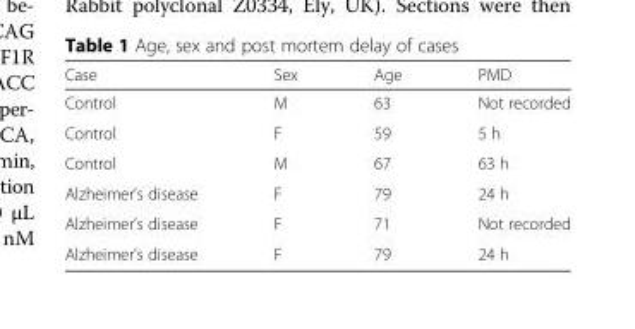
<table><thead><tr><td>Case</td><td>Sex</td><td>Age</td><td>PMD</td></tr></thead><tbody><tr><td>Control</td><td>M</td><td>63</td><td>Not recorded</td></tr><tr><td>Control</td><td>F</td><td>59</td><td>5 h</td></tr><tr><td>Control</td><td>M</td><td>67</td><td>63 h</td></tr><tr><td>Alzheimer’s disease</td><td>F</td><td>79</td><td>24 h</td></tr><tr><td>Alzheimer’s disease</td><td>F</td><td>71</td><td>Not recorded</td></tr><tr><td>Alzheimer’s disease</td><td>F</td><td>79</td><td>24 h</td></tr></tbody></table>